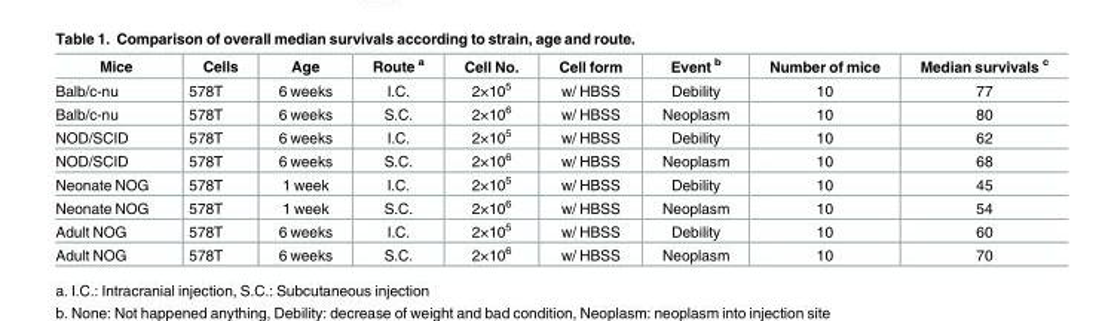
<table><thead><tr><td>Mice</td><td>Cells</td><td>Age</td><td>Route <sup>a</sup></td><td>Cell No.</td><td>Cell form</td><td>Event <sup>b</sup></td><td>Number of mice</td><td>Median survivals <sup>c</sup></td></tr></thead><tbody><tr><td>Balb/c-nu</td><td>578T</td><td>6 weeks</td><td>I.C.</td><td>2×10<sup>5</sup></td><td>w/ HBSS</td><td>Debility</td><td>10</td><td>77</td></tr><tr><td>Balb/c-nu</td><td>578T</td><td>6 weeks</td><td>S.C.</td><td>2×10<sup>6</sup></td><td>w/ HBSS</td><td>Neoplasm</td><td>10</td><td>80</td></tr><tr><td>NOD/SCID</td><td>578T</td><td>6 weeks</td><td>I.C.</td><td>2×10<sup>5</sup></td><td>w/ HBSS</td><td>Debility</td><td>10</td><td>62</td></tr><tr><td>NOD/SCID</td><td>578T</td><td>6 weeks</td><td>S.C.</td><td>2×10<sup>6</sup></td><td>w/ HBSS</td><td>Neoplasm</td><td>10</td><td>68</td></tr><tr><td>Neonate NOG</td><td>578T</td><td>1 week</td><td>I.C.</td><td>2×10<sup>5</sup></td><td>w/ HBSS</td><td>Debility</td><td>10</td><td>45</td></tr><tr><td>Neonate NOG</td><td>578T</td><td>1 week</td><td>S.C.</td><td>2×10<sup>6</sup></td><td>w/ HBSS</td><td>Neoplasm</td><td>10</td><td>54</td></tr><tr><td>Adult NOG</td><td>578T</td><td>6 weeks</td><td>I.C.</td><td>2×10<sup>5</sup></td><td>w/ HBSS</td><td>Debility</td><td>10</td><td>60</td></tr><tr><td>Adult NOG</td><td>578T</td><td>6 weeks</td><td>S.C.</td><td>2×10<sup>6</sup></td><td>w/ HBSS</td><td>Neoplasm</td><td>10</td><td>70</td></tr></tbody></table>